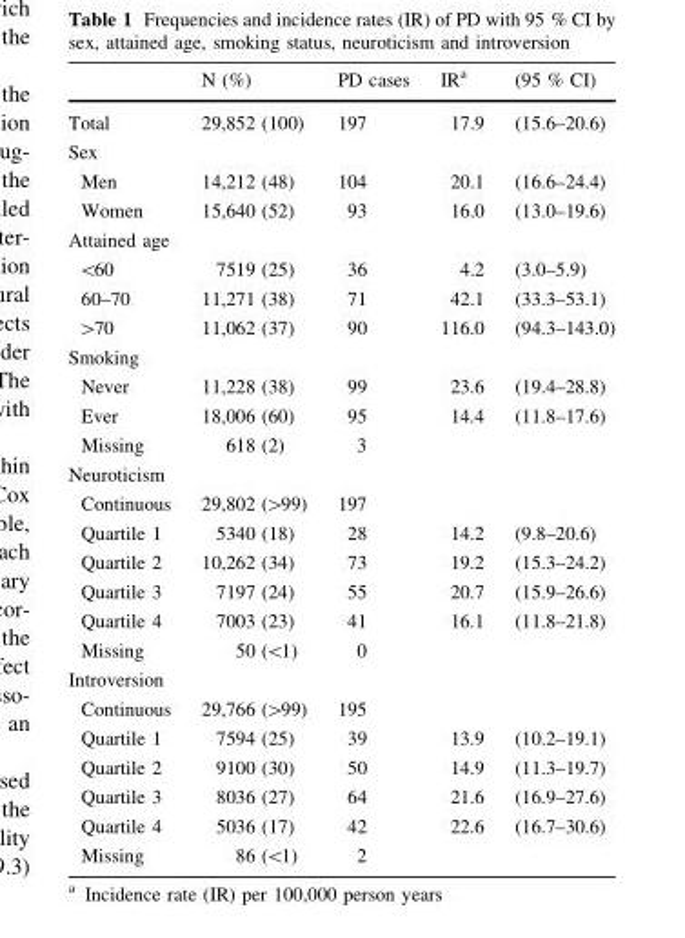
<table><thead><tr><td></td><td>N (%)</td><td>PD cases</td><td>IR<sup>a</sup></td><td>(95 % CI)</td></tr></thead><tbody><tr><td>Total</td><td>29,852 (100)</td><td>197</td><td>17.9</td><td>(15.6–20.6)</td></tr><tr><td colspan="5">Sex</td></tr><tr><td>Men</td><td>14,212 (48)</td><td>104</td><td>20.1</td><td>(16.6–24.4)</td></tr><tr><td>Women</td><td>15,640 (52)</td><td>93</td><td>16.0</td><td>(13.0–19.6)</td></tr><tr><td colspan="5">Attained age</td></tr><tr><td>&lt;60</td><td>7519 (25)</td><td>36</td><td>4.2</td><td>(3.0–5.9)</td></tr><tr><td>60–70</td><td>11,271 (38)</td><td>71</td><td>42.1</td><td>(33.3–53.1)</td></tr><tr><td>&gt;70</td><td>11,062 (37)</td><td>90</td><td>116.0</td><td>(94.3–143.0)</td></tr><tr><td colspan="5">Smoking</td></tr><tr><td>Never</td><td>11,228 (38)</td><td>99</td><td>23.6</td><td>(19.4–28.8)</td></tr><tr><td>Ever</td><td>18,006 (60)</td><td>95</td><td>14.4</td><td>(11.8–17.6)</td></tr><tr><td>Missing</td><td>618 (2)</td><td>3</td><td></td><td></td></tr><tr><td colspan="5">Neuroticism</td></tr><tr><td>Continuous</td><td>29,802 (&gt;99)</td><td>197</td><td></td><td></td></tr><tr><td>Quartile 1</td><td>5340 (18)</td><td>28</td><td>14.2</td><td>(9.8–20.6)</td></tr><tr><td>Quartile 2</td><td>10,262 (34)</td><td>73</td><td>19.2</td><td>(15.3–24.2)</td></tr><tr><td>Quartile 3</td><td>7197 (24)</td><td>55</td><td>20.7</td><td>(15.9–26.6)</td></tr><tr><td>Quartile 4</td><td>7003 (23)</td><td>41</td><td>16.1</td><td>(11.8–21.8)</td></tr><tr><td>Missing</td><td>50 (&lt;1)</td><td>0</td><td></td><td></td></tr><tr><td colspan="5">Introversion</td></tr><tr><td>Continuous</td><td>29,766 (&gt;99)</td><td>195</td><td></td><td></td></tr><tr><td>Quartile 1</td><td>7594 (25)</td><td>39</td><td>13.9</td><td>(10.2–19.1)</td></tr><tr><td>Quartile 2</td><td>9100 (30)</td><td>50</td><td>14.9</td><td>(11.3–19.7)</td></tr><tr><td>Quartile 3</td><td>8036 (27)</td><td>64</td><td>21.6</td><td>(16.9–27.6)</td></tr><tr><td>Quartile 4</td><td>5036 (17)</td><td>42</td><td>22.6</td><td>(16.7–30.6)</td></tr><tr><td>Missing</td><td>86 (&lt;1)</td><td>2</td><td></td><td></td></tr></tbody></table>